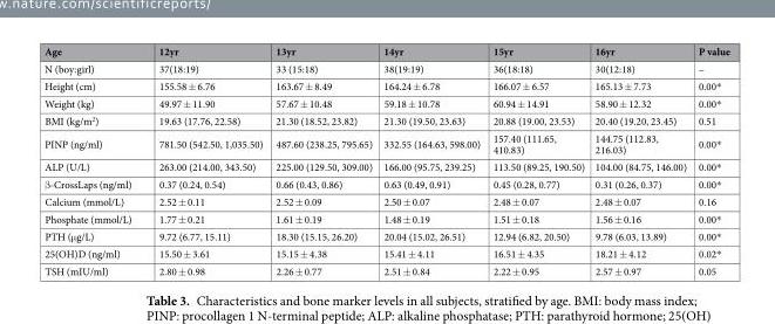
<table><thead><tr><td>Age</td><td>12yr</td><td>13yr</td><td>14yr</td><td>15yr</td><td>16yr</td><td>P value</td></tr></thead><tbody><tr><td>N (boy:girl)</td><td>37(18:19)</td><td>33 (15:18)</td><td>38(19:19)</td><td>36(18:18)</td><td>30(12:18)</td><td>–</td></tr><tr><td>Height (cm)</td><td>155.58 ± 6.76</td><td>163.67 ± 8.49</td><td>164.24 ± 6.78</td><td>166.07 ± 6.57</td><td>165.13 ± 7.73</td><td>0.00*</td></tr><tr><td>Weight (kg)</td><td>49.97 ± 11.90</td><td>57.67 ± 10.48</td><td>59.18 ± 10.78</td><td>60.94 ± 14.91</td><td>58.90 ± 12.32</td><td>0.00*</td></tr><tr><td>BMI (kg/m<sup>2</sup>)</td><td>19.63 (17.76, 22.58)</td><td>21.30 (18.52, 23.82)</td><td>21.30 (19.50, 23.63)</td><td>20.88 (19.00, 23.53)</td><td>20.40 (19.20, 23.45)</td><td>0.51</td></tr><tr><td>PINP (ng/ml)</td><td>781.50 (542.50, 1,035.50)</td><td>487.60 (238.25, 795.65)</td><td>332.55 (164.63, 598.00)</td><td>157.40 (111.65, 410.83)</td><td>144.75 (112.83, 216.03)</td><td>0.00*</td></tr><tr><td>ALP (U/L)</td><td>263.00 (214.00, 343.50)</td><td>225.00 (129.50, 309.00)</td><td>166.00 (95.75, 239.25)</td><td>113.50 (89.25, 190.50)</td><td>104.00 (84.75, 146.00)</td><td>0.00*</td></tr><tr><td>β-CrossLaps (ng/ml)</td><td>0.37 (0.24, 0.54)</td><td>0.66 (0.43, 0.86)</td><td>0.63 (0.49, 0.91)</td><td>0.45 (0.28, 0.77)</td><td>0.31 (0.26, 0.37)</td><td>0.00*</td></tr><tr><td>Calcium (mmol/L)</td><td>2.52 ± 0.11</td><td>2.52 ± 0.09</td><td>2.50 ± 0.07</td><td>2.48 ± 0.07</td><td>2.48 ± 0.07</td><td>0.16</td></tr><tr><td>Phosphate (mmol/L)</td><td>1.77 ± 0.21</td><td>1.61 ± 0.19</td><td>1.48 ± 0.19</td><td>1.51 ± 0.18</td><td>1.56 ± 0.16</td><td>0.00*</td></tr><tr><td>PTH (μg/L)</td><td>9.72 (6.77, 15.11)</td><td>18.30 (15.15, 26.20)</td><td>20.04 (15.02, 26.51)</td><td>12.94 (6.82, 20.50)</td><td>9.78 (6.03, 13.89)</td><td>0.00*</td></tr><tr><td>25(OH)D (ng/ml)</td><td>15.50 ± 3.61</td><td>15.15 ± 4.38</td><td>15.41 ± 4.11</td><td>16.51 ± 4.35</td><td>18.21 ± 4.12</td><td>0.02*</td></tr><tr><td>TSH (mIU/ml)</td><td>2.80 ± 0.98</td><td>2.26 ± 0.77</td><td>2.51 ± 0.84</td><td>2.22 ± 0.95</td><td>2.57 ± 0.97</td><td>0.05</td></tr></tbody></table>